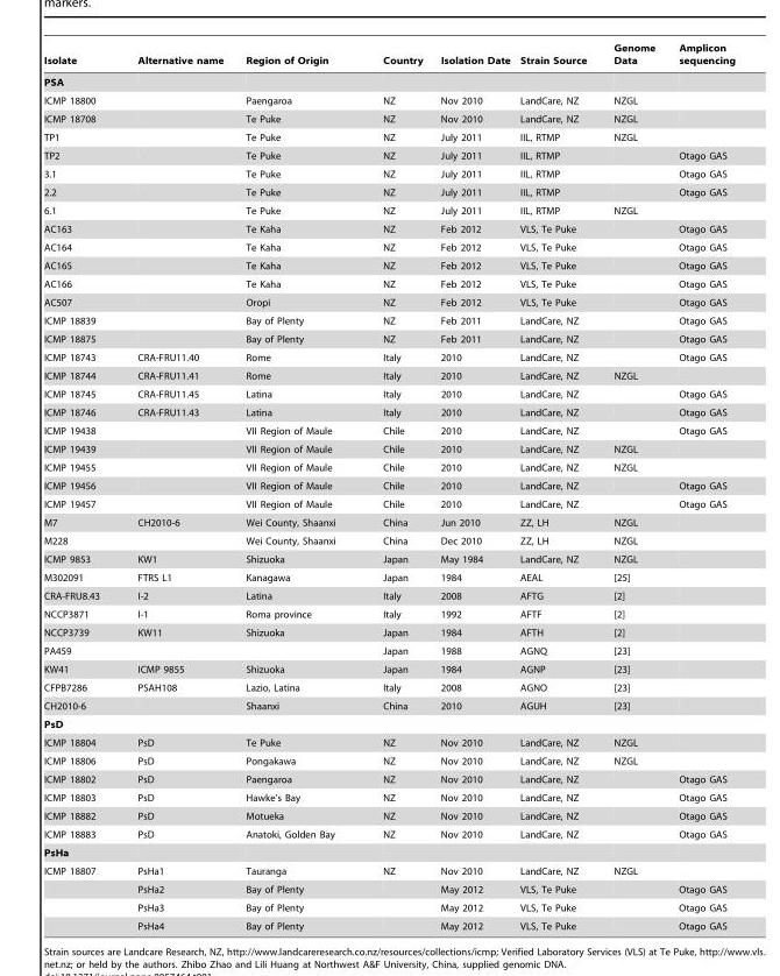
<table><thead><tr><td>Isolate</td><td>Alternative name</td><td>Region of Origin</td><td>Country</td><td>Isolation Date</td><td>Strain Source</td><td>Genome Data</td><td>Amplicon sequencing</td></tr></thead><tbody><tr><td colspan="8">PSA</td></tr><tr><td>ICMP 18800</td><td></td><td>Paengaroa</td><td>NZ</td><td>Nov 2010</td><td>LandCare, NZ</td><td>NZGL</td><td></td></tr><tr><td>ICMP 18708</td><td></td><td>Te Puke</td><td>NZ</td><td>Nov 2010</td><td>LandCare, NZ</td><td>NZGL</td><td></td></tr><tr><td>TP1</td><td></td><td>Te Puke</td><td>NZ</td><td>July 2011</td><td>IIL, RTMP</td><td>NZGL</td><td></td></tr><tr><td>TP2</td><td></td><td>Te Puke</td><td>NZ</td><td>July 2011</td><td>IIL, RTMP</td><td></td><td>Otago GAS</td></tr><tr><td>3.1</td><td></td><td>Te Puke</td><td>NZ</td><td>July 2011</td><td>IIL, RTMP</td><td></td><td>Otago GAS</td></tr><tr><td>2.2</td><td></td><td>Te Puke</td><td>NZ</td><td>July 2011</td><td>IIL, RTMP</td><td></td><td>Otago GAS</td></tr><tr><td>6.1</td><td></td><td>Te Puke</td><td>NZ</td><td>July 2011</td><td>IIL, RTMP</td><td>NZGL</td><td></td></tr><tr><td>AC163</td><td></td><td>Te Kaha</td><td>NZ</td><td>Feb 2012</td><td>VLS, Te Puke</td><td></td><td>Otago GAS</td></tr><tr><td>AC164</td><td></td><td>Te Kaha</td><td>NZ</td><td>Feb 2012</td><td>VLS, Te Puke</td><td></td><td>Otago GAS</td></tr><tr><td>AC165</td><td></td><td>Te Kaha</td><td>NZ</td><td>Feb 2012</td><td>VLS, Te Puke</td><td></td><td>Otago GAS</td></tr><tr><td>AC166</td><td></td><td>Te Kaha</td><td>NZ</td><td>Feb 2012</td><td>VLS, Te Puke</td><td></td><td>Otago GAS</td></tr><tr><td>AC507</td><td></td><td>Oropi</td><td>NZ</td><td>Feb 2012</td><td>VLS, Te Puke</td><td></td><td>Otago GAS</td></tr><tr><td>ICMP 18839</td><td></td><td>Bay of Plenty</td><td>NZ</td><td>Feb 2011</td><td>LandCare, NZ</td><td></td><td>Otago GAS</td></tr><tr><td>ICMP 18875</td><td></td><td>Bay of Plenty</td><td>NZ</td><td>Feb 2011</td><td>LandCare, NZ</td><td></td><td>Otago GAS</td></tr><tr><td>ICMP 18743</td><td>CRA-FRU11.40</td><td>Rome</td><td>Italy</td><td>2010</td><td>LandCare, NZ</td><td></td><td>Otago GAS</td></tr><tr><td>ICMP 18744</td><td>CRA-FRU11.41</td><td>Rome</td><td>Italy</td><td>2010</td><td>LandCare, NZ</td><td>NZGL</td><td></td></tr><tr><td>ICMP 18745</td><td>CRA-FRU11.45</td><td>Latina</td><td>Italy</td><td>2010</td><td>LandCare, NZ</td><td></td><td>Otago GAS</td></tr><tr><td>ICMP 18746</td><td>CRA-FRU11.43</td><td>Latina</td><td>Italy</td><td>2010</td><td>LandCare, NZ</td><td></td><td>Otago GAS</td></tr><tr><td>ICMP 19438</td><td></td><td>VII Region of Maule</td><td>Chile</td><td>2010</td><td>LandCare, NZ</td><td></td><td>Otago GAS</td></tr><tr><td>ICMP 19439</td><td></td><td>VII Region of Maule</td><td>Chile</td><td>2010</td><td>LandCare, NZ</td><td>NZGL</td><td></td></tr><tr><td>ICMP 19455</td><td></td><td>VII Region of Maule</td><td>Chile</td><td>2010</td><td>LandCare, NZ</td><td>NZGL</td><td></td></tr><tr><td>ICMP 19456</td><td></td><td>VII Region of Maule</td><td>Chile</td><td>2010</td><td>LandCare, NZ</td><td></td><td>Otago GAS</td></tr><tr><td>ICMP 19457</td><td></td><td>VII Region of Maule</td><td>Chile</td><td>2010</td><td>LandCare, NZ</td><td></td><td>Otago GAS</td></tr><tr><td>M7</td><td>CH2010-6</td><td>Wei County, Shaanxi</td><td>China</td><td>Jun 2010</td><td>ZZ, LH</td><td>NZGL</td><td></td></tr><tr><td>M228</td><td></td><td>Wei County, Shaanxi</td><td>China</td><td>Dec 2010</td><td>ZZ, LH</td><td>NZGL</td><td></td></tr><tr><td>ICMP 9853</td><td>KW1</td><td>Shizuoka</td><td>Japan</td><td>May 1984</td><td>LandCare, NZ</td><td>NZGL</td><td></td></tr><tr><td>M302091</td><td>FTRS L1</td><td>Kanagawa</td><td>Japan</td><td>1984</td><td>AEAL</td><td>[25]</td><td></td></tr><tr><td>CRA-FRU8.43</td><td>I-2</td><td>Latina</td><td>Italy</td><td>2008</td><td>AFTG</td><td>[2]</td><td></td></tr><tr><td>NCCP3871</td><td>I-1</td><td>Roma province</td><td>Italy</td><td>1992</td><td>AFTF</td><td>[2]</td><td></td></tr><tr><td>NCCP3739</td><td>KW11</td><td>Shizuoka</td><td>Japan</td><td>1984</td><td>AFTH</td><td>[2]</td><td></td></tr><tr><td>PA459</td><td></td><td></td><td>Japan</td><td>1988</td><td>AGNQ</td><td>[23]</td><td></td></tr><tr><td>KW41</td><td>ICMP 9855</td><td>Shizuoka</td><td>Japan</td><td>1984</td><td>AGNP</td><td>[23]</td><td></td></tr><tr><td>CFPB7286</td><td>PSAH108</td><td>Lazio, Latina</td><td>Italy</td><td>2008</td><td>AGNO</td><td>[23]</td><td></td></tr><tr><td>CH2010-6</td><td></td><td>Shaanxi</td><td>China</td><td>2010</td><td>AGUH</td><td>[23]</td><td></td></tr><tr><td colspan="8">PsD</td></tr><tr><td>ICMP 18804</td><td>PsD</td><td>Te Puke</td><td>NZ</td><td>Nov 2010</td><td>LandCare, NZ</td><td>NZGL</td><td></td></tr><tr><td>ICMP 18806</td><td>PsD</td><td>Pongakawa</td><td>NZ</td><td>Nov 2010</td><td>LandCare, NZ</td><td>NZGL</td><td></td></tr><tr><td>ICMP 18802</td><td>PsD</td><td>Paengaroa</td><td>NZ</td><td>Nov 2010</td><td>LandCare, NZ</td><td></td><td>Otago GAS</td></tr><tr><td>ICMP 18803</td><td>PsD</td><td>Hawke’s Bay</td><td>NZ</td><td>Nov 2010</td><td>LandCare, NZ</td><td></td><td>Otago GAS</td></tr><tr><td>ICMP 18882</td><td>PsD</td><td>Motueka</td><td>NZ</td><td>Nov 2010</td><td>LandCare, NZ</td><td></td><td>Otago GAS</td></tr><tr><td>ICMP 18883</td><td>PsD</td><td>Anatoki, Golden Bay</td><td>NZ</td><td>Nov 2010</td><td>LandCare, NZ</td><td></td><td>Otago GAS</td></tr><tr><td colspan="8">PsHa</td></tr><tr><td rowspan="4">ICMP 18807</td><td>PsHa1</td><td>Tauranga</td><td>NZ</td><td>Nov 2010</td><td>LandCare, NZ</td><td>NZGL</td><td></td></tr><tr><td>PsHa2</td><td>Bay of Plenty</td><td></td><td>May 2012</td><td>VLS, Te Puke</td><td></td><td>Otago GAS</td></tr><tr><td>PsHa3</td><td>Bay of Plenty</td><td></td><td>May 2012</td><td>VLS, Te Puke</td><td></td><td>Otago GAS</td></tr><tr><td>PsHa4</td><td>Bay of Plenty</td><td></td><td>May 2012</td><td>VLS, Te Puke</td><td></td><td>Otago GAS</td></tr></tbody></table>